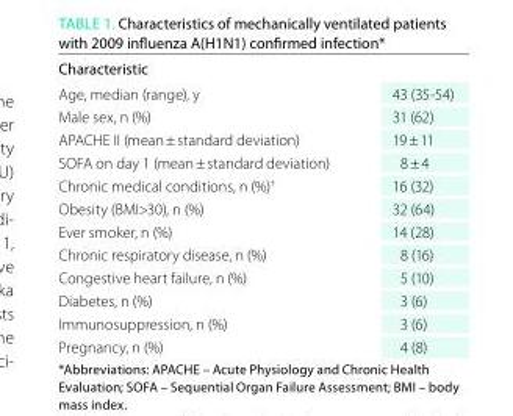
<table><thead><tr><td>Characteristic</td><td></td></tr></thead><tbody><tr><td>Age, median (range), y</td><td>43 (35-54)</td></tr><tr><td>Male sex, n (%)</td><td>31 (62)</td></tr><tr><td>APACHE II (mean ± standard deviation)</td><td>19 ± 11</td></tr><tr><td>SOFA on day 1 (mean ± standard deviation)</td><td>8 ± 4</td></tr><tr><td>Chronic medical conditions, n (%)<sup>†</sup></td><td>16 (32)</td></tr><tr><td>Obesity (BMI&gt;30), n (%)</td><td>32 (64)</td></tr><tr><td>Ever smoker, n (%)</td><td>14 (28)</td></tr><tr><td>Chronic respiratory disease, n (%)</td><td>8 (16)</td></tr><tr><td>Congestive heart failure, n (%)</td><td>5 (10)</td></tr><tr><td>Diabetes, n (%)</td><td>3 (6)</td></tr><tr><td>Immunosuppression, n (%)</td><td>3 (6)</td></tr><tr><td>Pregnancy, n (%)</td><td>4 (8)</td></tr></tbody></table>